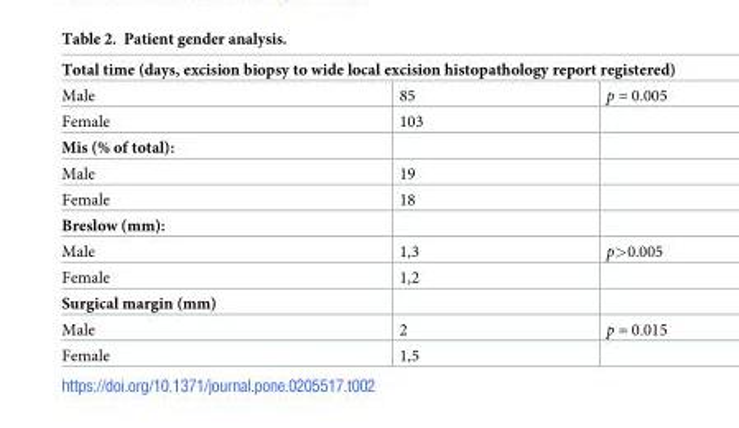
<table><thead><tr><td colspan="3">Total time (days, excision biopsy to wide local excision histopathology report registered)</td></tr><tr><td>Male</td><td>85</td><td>p = 0.005</td></tr></thead><tbody><tr><td>Female</td><td>103</td><td></td></tr><tr><td colspan="3">Mis (% of total):</td></tr><tr><td>Male</td><td>19</td><td></td></tr><tr><td>Female</td><td>18</td><td></td></tr><tr><td colspan="3">Breslow (mm):</td></tr><tr><td>Male</td><td>1,3</td><td>p&gt;0.005</td></tr><tr><td>Female</td><td>1,2</td><td></td></tr><tr><td colspan="3">Surgical margin (mm)</td></tr><tr><td>Male</td><td>2</td><td>p = 0.015</td></tr><tr><td>Female</td><td>1,5</td><td></td></tr></tbody></table>